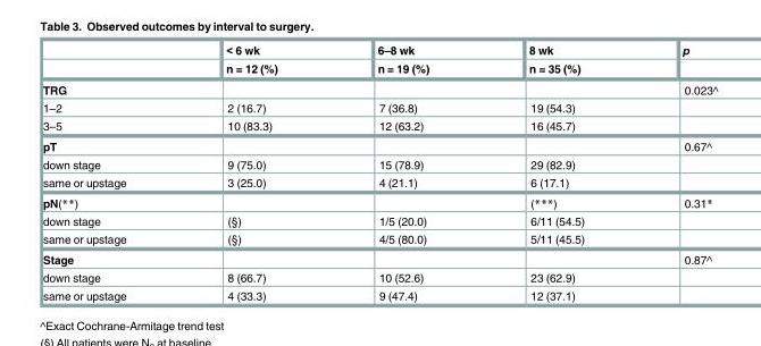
<table><thead><tr><td rowspan="2"></td><td rowspan="2">&lt; 6 wk n = 12 (%)</td><td rowspan="2">6–8 wk n = 19 (%)</td><td rowspan="2">8 wk n = 35 (%)</td><td rowspan="2">p</td></tr><tr></tr></thead><tbody><tr><td>TRG</td><td></td><td></td><td></td><td>0.023^</td></tr><tr><td>1–2</td><td>2 (16.7)</td><td>7 (36.8)</td><td>19 (54.3)</td><td></td></tr><tr><td>3–5</td><td>10 (83.3)</td><td>12 (63.2)</td><td>16 (45.7)</td><td></td></tr><tr><td>pT</td><td></td><td></td><td></td><td>0.67^</td></tr><tr><td>down stage</td><td>9 (75.0)</td><td>15 (78.9)</td><td>29 (82.9)</td><td></td></tr><tr><td>same or upstage</td><td>3 (25.0)</td><td>4 (21.1)</td><td>6 (17.1)</td><td></td></tr><tr><td>pN(**)</td><td></td><td></td><td>(***)</td><td>0.31*</td></tr><tr><td>down stage</td><td>(§)</td><td>1/5 (20.0)</td><td>6/11 (54.5)</td><td></td></tr><tr><td>same or upstage</td><td>(§)</td><td>4/5 (80.0)</td><td>5/11 (45.5)</td><td></td></tr><tr><td>Stage</td><td></td><td></td><td></td><td>0.87^</td></tr><tr><td>down stage</td><td>8 (66.7)</td><td>10 (52.6)</td><td>23 (62.9)</td><td></td></tr><tr><td>same or upstage</td><td>4 (33.3)</td><td>9 (47.4)</td><td>12 (37.1)</td><td></td></tr></tbody></table>